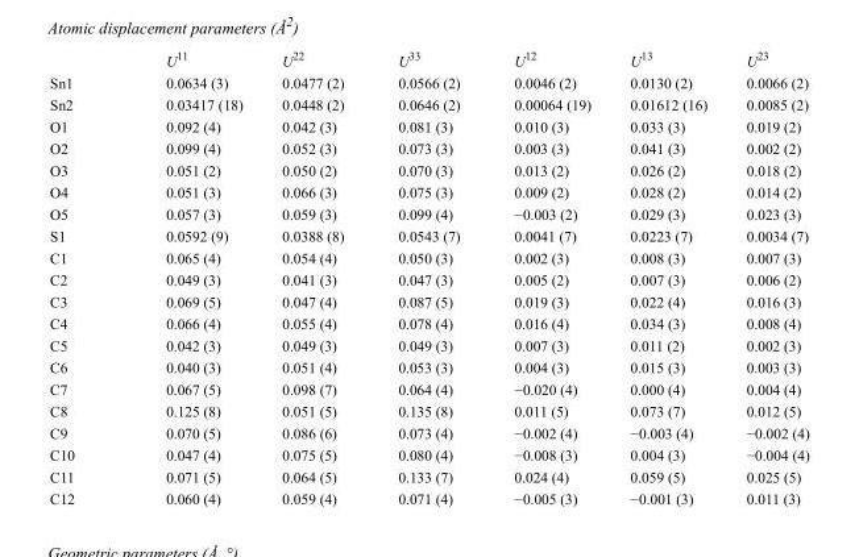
<table><thead><tr><td></td><td>U<sup>11</sup></td><td>U<sup>22</sup></td><td>U<sup>33</sup></td><td>U<sup>12</sup></td><td>U<sup>13</sup></td><td>U<sup>23</sup></td></tr></thead><tbody><tr><td>Sn1</td><td>0.0634 (3)</td><td>0.0477 (2)</td><td>0.0566 (2)</td><td>0.0046 (2)</td><td>0.0130 (2)</td><td>0.0066 (2)</td></tr><tr><td>Sn2</td><td>0.03417 (18)</td><td>0.0448 (2)</td><td>0.0646 (2)</td><td>0.00064 (19)</td><td>0.01612 (16)</td><td>0.0085 (2)</td></tr><tr><td>O1</td><td>0.092 (4)</td><td>0.042 (3)</td><td>0.081 (3)</td><td>0.010 (3)</td><td>0.033 (3)</td><td>0.019 (2)</td></tr><tr><td>O2</td><td>0.099 (4)</td><td>0.052 (3)</td><td>0.073 (3)</td><td>0.003 (3)</td><td>0.041 (3)</td><td>0.002 (2)</td></tr><tr><td>O3</td><td>0.051 (2)</td><td>0.050 (2)</td><td>0.070 (3)</td><td>0.013 (2)</td><td>0.026 (2)</td><td>0.018 (2)</td></tr><tr><td>O4</td><td>0.051 (3)</td><td>0.066 (3)</td><td>0.075 (3)</td><td>0.009 (2)</td><td>0.028 (2)</td><td>0.014 (2)</td></tr><tr><td>O5</td><td>0.057 (3)</td><td>0.059 (3)</td><td>0.099 (4)</td><td>−0.003 (2)</td><td>0.029 (3)</td><td>0.023 (3)</td></tr><tr><td>S1</td><td>0.0592 (9)</td><td>0.0388 (8)</td><td>0.0543 (7)</td><td>0.0041 (7)</td><td>0.0223 (7)</td><td>0.0034 (7)</td></tr><tr><td>C1</td><td>0.065 (4)</td><td>0.054 (4)</td><td>0.050 (3)</td><td>0.002 (3)</td><td>0.008 (3)</td><td>0.007 (3)</td></tr><tr><td>C2</td><td>0.049 (3)</td><td>0.041 (3)</td><td>0.047 (3)</td><td>0.005 (2)</td><td>0.007 (3)</td><td>0.006 (2)</td></tr><tr><td>C3</td><td>0.069 (5)</td><td>0.047 (4)</td><td>0.087 (5)</td><td>0.019 (3)</td><td>0.022 (4)</td><td>0.016 (3)</td></tr><tr><td>C4</td><td>0.066 (4)</td><td>0.055 (4)</td><td>0.078 (4)</td><td>0.016 (4)</td><td>0.034 (3)</td><td>0.008 (4)</td></tr><tr><td>C5</td><td>0.042 (3)</td><td>0.049 (3)</td><td>0.049 (3)</td><td>0.007 (3)</td><td>0.011 (2)</td><td>0.002 (3)</td></tr><tr><td>C6</td><td>0.040 (3)</td><td>0.051 (4)</td><td>0.053 (3)</td><td>0.004 (3)</td><td>0.015 (3)</td><td>0.003 (3)</td></tr><tr><td>C7</td><td>0.067 (5)</td><td>0.098 (7)</td><td>0.064 (4)</td><td>−0.020 (4)</td><td>0.000 (4)</td><td>0.004 (4)</td></tr><tr><td>C8</td><td>0.125 (8)</td><td>0.051 (5)</td><td>0.135 (8)</td><td>0.011 (5)</td><td>0.073 (7)</td><td>0.012 (5)</td></tr><tr><td>C9</td><td>0.070 (5)</td><td>0.086 (6)</td><td>0.073 (4)</td><td>−0.002 (4)</td><td>−0.003 (4)</td><td>−0.002 (4)</td></tr><tr><td>C10</td><td>0.047 (4)</td><td>0.075 (5)</td><td>0.080 (4)</td><td>−0.008 (3)</td><td>0.004 (3)</td><td>−0.004 (4)</td></tr><tr><td>C11</td><td>0.071 (5)</td><td>0.064 (5)</td><td>0.133 (7)</td><td>0.024 (4)</td><td>0.059 (5)</td><td>0.025 (5)</td></tr><tr><td>C12</td><td>0.060 (4)</td><td>0.059 (4)</td><td>0.071 (4)</td><td>−0.005 (3)</td><td>−0.001 (3)</td><td>0.011 (3)</td></tr></tbody></table>